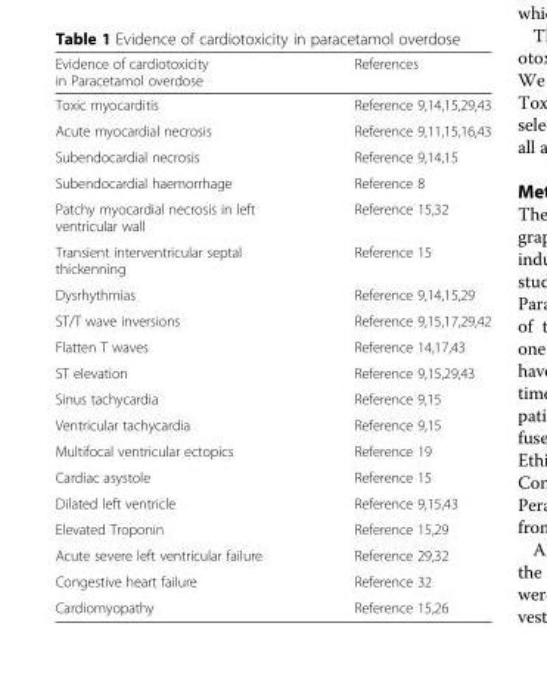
<table><thead><tr><td>Evidence of cardiotoxicity in Paracetamol overdose</td><td>References</td></tr></thead><tbody><tr><td>Toxic myocarditis</td><td>Reference 9,14,15,29,43</td></tr><tr><td>Acute myocardial necrosis</td><td>Reference 9,11,15,16,43</td></tr><tr><td>Subendocardial necrosis</td><td>Reference 9,14,15</td></tr><tr><td>Subendocardial haemorrhage</td><td>Reference 8</td></tr><tr><td>Patchy myocardial necrosis in left ventricular wall</td><td>Reference 15,32</td></tr><tr><td>Transient interventricular septal thickenning</td><td>Reference 15</td></tr><tr><td>Dysrhythmias</td><td>Reference 9,14,15,29</td></tr><tr><td>ST/T wave inversions</td><td>Reference 9,15,17,29,42</td></tr><tr><td>Flatten T waves</td><td>Reference 14,17,43</td></tr><tr><td>ST elevation</td><td>Reference 9,15,29,43</td></tr><tr><td>Sinus tachycardia</td><td>Reference 9,15</td></tr><tr><td>Ventricular tachycardia</td><td>Reference 9,15</td></tr><tr><td>Multifocal ventricular ectopics</td><td>Reference 19</td></tr><tr><td>Cardiac asystole</td><td>Reference 15</td></tr><tr><td>Dilated left ventricle</td><td>Reference 9,15,43</td></tr><tr><td>Elevated Troponin</td><td>Reference 15,29</td></tr><tr><td>Acute severe left ventricular failure</td><td>Reference 29,32</td></tr><tr><td>Congestive heart failure</td><td>Reference 32</td></tr><tr><td>Cardiomyopathy</td><td>Reference 15,26</td></tr></tbody></table>